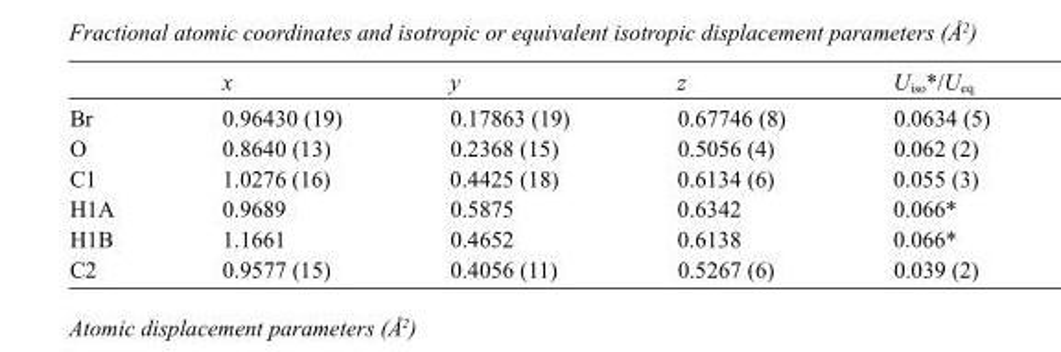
<table><thead><tr><td></td><td>x</td><td>y</td><td>z</td><td>U<sub>iso</sub>*/U<sub>eq</sub></td></tr></thead><tbody><tr><td>Br</td><td>0.96430 (19)</td><td>0.17863 (19)</td><td>0.67746 (8)</td><td>0.0634 (5)</td></tr><tr><td>O</td><td>0.8640 (13)</td><td>0.2368 (15)</td><td>0.5056 (4)</td><td>0.062 (2)</td></tr><tr><td>C1</td><td>1.0276 (16)</td><td>0.4425 (18)</td><td>0.6134 (6)</td><td>0.055 (3)</td></tr><tr><td>H1A</td><td>0.9689</td><td>0.5875</td><td>0.6342</td><td>0.066*</td></tr><tr><td>H1B</td><td>1.1661</td><td>0.4652</td><td>0.6138</td><td>0.066*</td></tr><tr><td>C2</td><td>0.9577 (15)</td><td>0.4056 (11)</td><td>0.5267 (6)</td><td>0.039 (2)</td></tr></tbody></table>